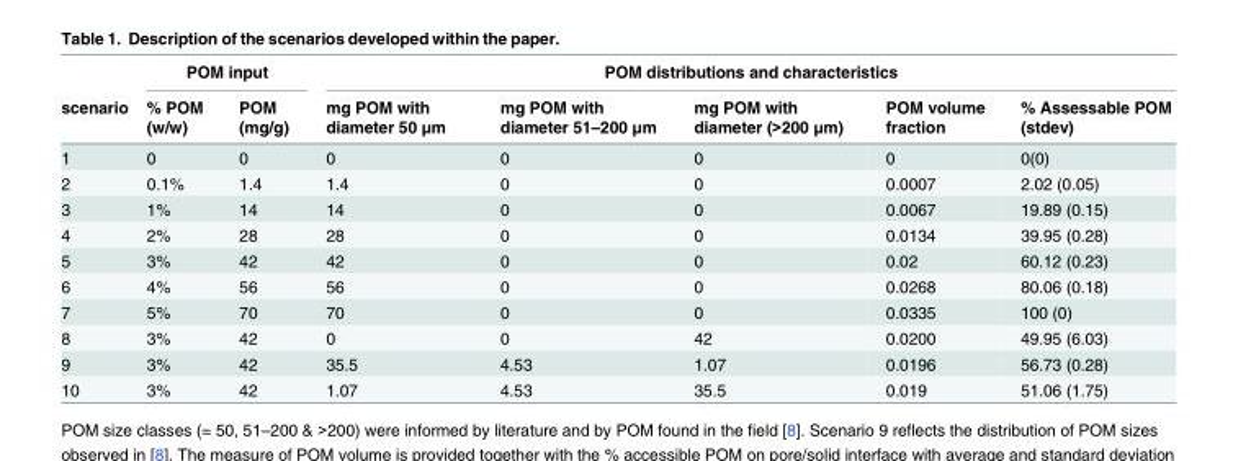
<table><thead><tr><td rowspan="2">scenario</td><td colspan="2">POM input</td><td colspan="5">POM distributions and characteristics</td></tr><tr><td>% POM (w/w)</td><td>POM (mg/g)</td><td>mg POM with diameter 50 μm</td><td>mg POM with diameter 51–200 μm</td><td>mg POM with diameter (&gt;200 μm)</td><td>POM volume fraction</td><td>% Assessable POM (stdev)</td></tr></thead><tbody><tr><td>1</td><td>0</td><td>0</td><td>0</td><td>0</td><td>0</td><td>0</td><td>0(0)</td></tr><tr><td>2</td><td>0.1%</td><td>1.4</td><td>1.4</td><td>0</td><td>0</td><td>0.0007</td><td>2.02 (0.05)</td></tr><tr><td>3</td><td>1%</td><td>14</td><td>14</td><td>0</td><td>0</td><td>0.0067</td><td>19.89 (0.15)</td></tr><tr><td>4</td><td>2%</td><td>28</td><td>28</td><td>0</td><td>0</td><td>0.0134</td><td>39.95 (0.28)</td></tr><tr><td>5</td><td>3%</td><td>42</td><td>42</td><td>0</td><td>0</td><td>0.02</td><td>60.12 (0.23)</td></tr><tr><td>6</td><td>4%</td><td>56</td><td>56</td><td>0</td><td>0</td><td>0.0268</td><td>80.06 (0.18)</td></tr><tr><td>7</td><td>5%</td><td>70</td><td>70</td><td>0</td><td>0</td><td>0.0335</td><td>100 (0)</td></tr><tr><td>8</td><td>3%</td><td>42</td><td>0</td><td>0</td><td>42</td><td>0.0200</td><td>49.95 (6.03)</td></tr><tr><td>9</td><td>3%</td><td>42</td><td>35.5</td><td>4.53</td><td>1.07</td><td>0.0196</td><td>56.73 (0.28)</td></tr><tr><td>10</td><td>3%</td><td>42</td><td>1.07</td><td>4.53</td><td>35.5</td><td>0.019</td><td>51.06 (1.75)</td></tr></tbody></table>